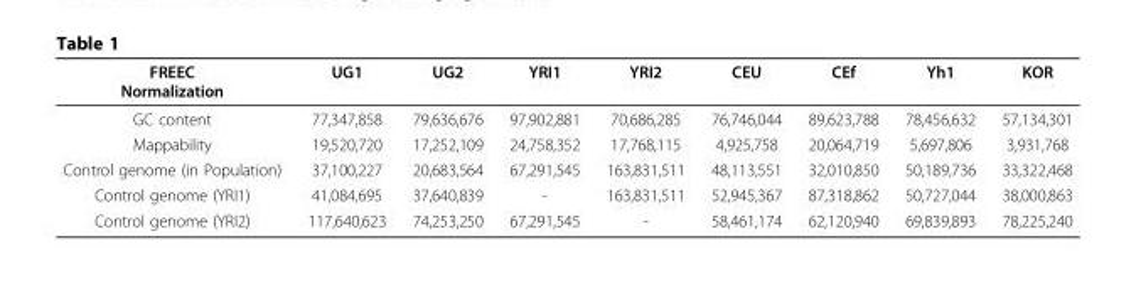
<table><thead><tr><td>FREEC Normalization</td><td>UG1</td><td>UG2</td><td>YRI1</td><td>YRI2</td><td>CEU</td><td>CEf</td><td>Yh1</td><td>KOR</td></tr></thead><tbody><tr><td>GC content</td><td>77,347,858</td><td>79,636,676</td><td>97,902,881</td><td>70,686,285</td><td>76,746,044</td><td>89,623,788</td><td>78,456,632</td><td>57,134,301</td></tr><tr><td>Mappability</td><td>19,520,720</td><td>17,252,109</td><td>24,758,352</td><td>17,768,115</td><td>4,925,758</td><td>20,064,719</td><td>5,697,806</td><td>3,931,768</td></tr><tr><td>Control genome (in Population)</td><td>37,100,227</td><td>20,683,564</td><td>67,291,545</td><td>163,831,511</td><td>48,113,551</td><td>32,010,850</td><td>50,189,736</td><td>33,322,468</td></tr><tr><td>Control genome (YRI1)</td><td>41,084,695</td><td>37,640,839</td><td>-</td><td>163,831,511</td><td>52,945,367</td><td>87,318,862</td><td>50,727,044</td><td>38,000,863</td></tr><tr><td>Control genome (YRI2)</td><td>117,640,623</td><td>74,253,250</td><td>67,291,545</td><td>-</td><td>58,461,174</td><td>62,120,940</td><td>69,839,893</td><td>78,225,240</td></tr></tbody></table>